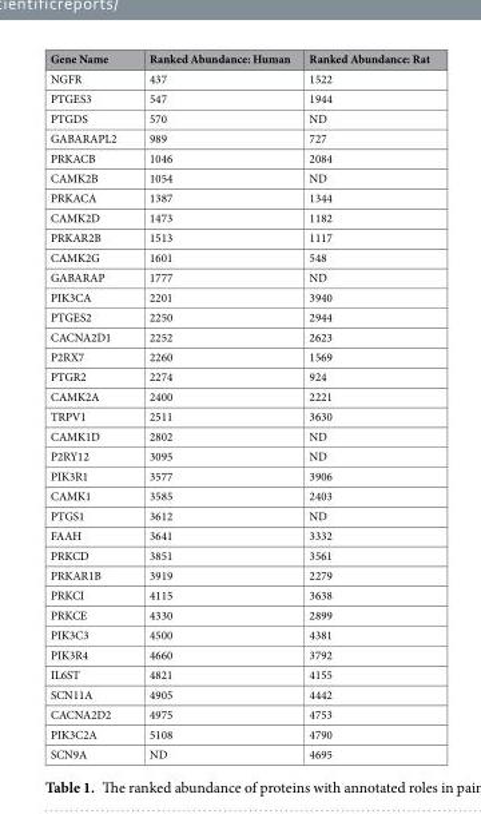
<table><thead><tr><td>Gene Name</td><td>Ranked Abundance: Human</td><td>Ranked Abundance: Rat</td></tr></thead><tbody><tr><td>NGFR</td><td>437</td><td>1522</td></tr><tr><td>PTGES3</td><td>547</td><td>1944</td></tr><tr><td>PTGDS</td><td>570</td><td>ND</td></tr><tr><td>GABARAPL2</td><td>989</td><td>727</td></tr><tr><td>PRKACB</td><td>1046</td><td>2084</td></tr><tr><td>CAMK2B</td><td>1054</td><td>ND</td></tr><tr><td>PRKACA</td><td>1387</td><td>1344</td></tr><tr><td>CAMK2D</td><td>1473</td><td>1182</td></tr><tr><td>PRKAR2B</td><td>1513</td><td>1117</td></tr><tr><td>CAMK2G</td><td>1601</td><td>548</td></tr><tr><td>GABARAP</td><td>1777</td><td>ND</td></tr><tr><td>PIK3CA</td><td>2201</td><td>3940</td></tr><tr><td>PTGES2</td><td>2250</td><td>2944</td></tr><tr><td>CACNA2D1</td><td>2252</td><td>2623</td></tr><tr><td>P2RX7</td><td>2260</td><td>1569</td></tr><tr><td>PTGR2</td><td>2274</td><td>924</td></tr><tr><td>CAMK2A</td><td>2400</td><td>2221</td></tr><tr><td>TRPV1</td><td>2511</td><td>3630</td></tr><tr><td>CAMK1D</td><td>2802</td><td>ND</td></tr><tr><td>P2RY12</td><td>3095</td><td>ND</td></tr><tr><td>PIK3R1</td><td>3577</td><td>3906</td></tr><tr><td>CAMK1</td><td>3585</td><td>2403</td></tr><tr><td>PTGS1</td><td>3612</td><td>ND</td></tr><tr><td>FAAH</td><td>3641</td><td>3332</td></tr><tr><td>PRKCD</td><td>3851</td><td>3561</td></tr><tr><td>PRKAR1B</td><td>3919</td><td>2279</td></tr><tr><td>PRKCI</td><td>4115</td><td>3638</td></tr><tr><td>PRKCE</td><td>4330</td><td>2899</td></tr><tr><td>PIK3C3</td><td>4500</td><td>4381</td></tr><tr><td>PIK3R4</td><td>4660</td><td>3792</td></tr><tr><td>IL6ST</td><td>4821</td><td>4155</td></tr><tr><td>SCN11A</td><td>4905</td><td>4442</td></tr><tr><td>CACNA2D2</td><td>4975</td><td>4753</td></tr><tr><td>PIK3C2A</td><td>5108</td><td>4790</td></tr><tr><td>SCN9A</td><td>ND</td><td>4695</td></tr></tbody></table>